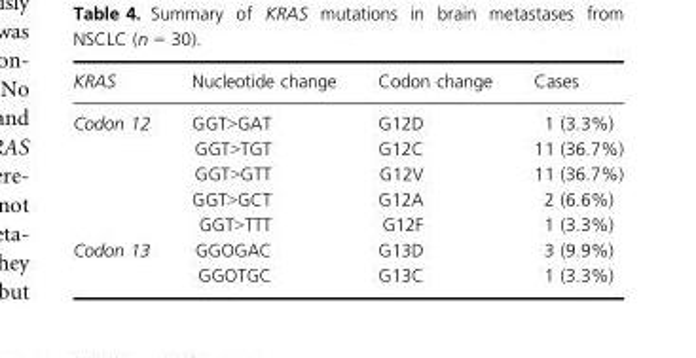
<table><thead><tr><td>KRAS</td><td>Nucleotide change</td><td>Codon change</td><td>Cases</td></tr></thead><tbody><tr><td rowspan="5">Codon 12</td><td>GGT&gt;GAT</td><td>G12D</td><td>1 (3.3%)</td></tr><tr><td>GGT&gt;TGT</td><td>G12C</td><td>11 (36.7%)</td></tr><tr><td>GGT&gt;GTT</td><td>G12V</td><td>11 (36.7%)</td></tr><tr><td>GGT&gt;GCT</td><td>G12A</td><td>2 (6.6%)</td></tr><tr><td>GGT&gt;TTT</td><td>G12F</td><td>1 (3.3%)</td></tr><tr><td rowspan="2">Codon 13</td><td>GGOGAC</td><td>G13D</td><td>3 (9.9%)</td></tr><tr><td>GGOTGC</td><td>G13C</td><td>1 (3.3%)</td></tr></tbody></table>